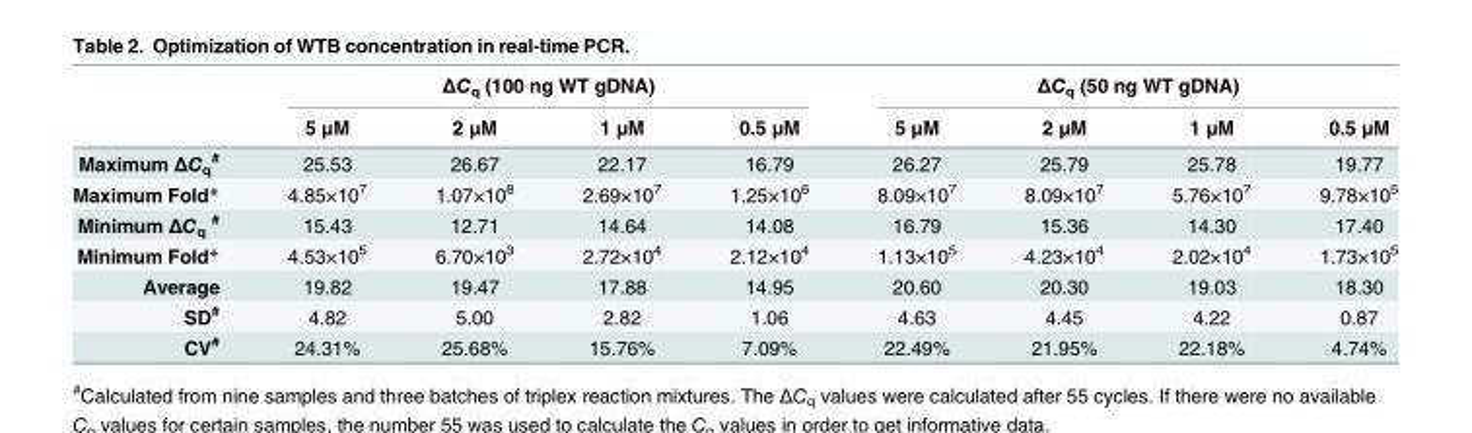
<table><thead><tr><td rowspan="2"></td><td colspan="4">ΔC<sub>q</sub> (100 ng WT gDNA)</td><td colspan="4">ΔC<sub>q</sub> (50 ng WT gDNA)</td></tr><tr><td>5 μM</td><td>2 μM</td><td>1 μM</td><td>0.5 μM</td><td>5 μM</td><td>2 μM</td><td>1 μM</td><td>0.5 μM</td></tr></thead><tbody><tr><td>Maximum ΔC<sub>q</sub> <sup>#</sup></td><td>25.53</td><td>26.67</td><td>22.17</td><td>16.79</td><td>26.27</td><td>25.79</td><td>25.78</td><td>19.77</td></tr><tr><td>Maximum Fold*</td><td>4.85×10<sup>7</sup></td><td>1.07×10<sup>8</sup></td><td>2.69×10<sup>7</sup></td><td>1.25×10<sup>6</sup></td><td>8.09×10<sup>7</sup></td><td>8.09×10<sup>7</sup></td><td>5.76×10<sup>7</sup></td><td>9.78×10<sup>5</sup></td></tr><tr><td>Minimum ΔC<sub>q</sub> <sup>#</sup></td><td>15.43</td><td>12.71</td><td>14.64</td><td>14.08</td><td>16.79</td><td>15.36</td><td>14.30</td><td>17.40</td></tr><tr><td>Minimum Fold*</td><td>4.53×10<sup>5</sup></td><td>6.70×10<sup>3</sup></td><td>2.72×10<sup>4</sup></td><td>2.12×10<sup>4</sup></td><td>1.13×10<sup>5</sup></td><td>4.23×10<sup>4</sup></td><td>2.02×10<sup>4</sup></td><td>1.73×10<sup>5</sup></td></tr><tr><td>Average</td><td>19.82</td><td>19.47</td><td>17.88</td><td>14.95</td><td>20.60</td><td>20.30</td><td>19.03</td><td>18.30</td></tr><tr><td>SD<sup>#</sup></td><td>4.82</td><td>5.00</td><td>2.82</td><td>1.06</td><td>4.63</td><td>4.45</td><td>4.22</td><td>0.87</td></tr><tr><td>CV<sup>#</sup></td><td>24.31%</td><td>25.68%</td><td>15.76%</td><td>7.09%</td><td>22.49%</td><td>21.95%</td><td>22.18%</td><td>4.74%</td></tr></tbody></table>